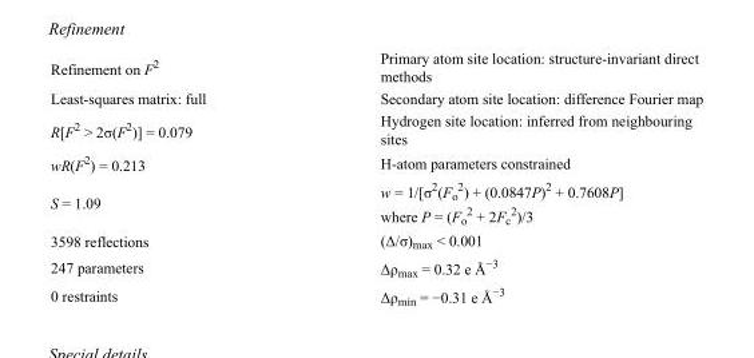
<table><tbody><tr><td>Refinement on F<sup>2</sup></td><td>Primary atom site location: structure-invariant direct methods</td></tr><tr><td>Least-squares matrix: full</td><td>Secondary atom site location: difference Fourier map</td></tr><tr><td>R[F<sup>2</sup> &gt; 2σ(F<sup>2</sup>)] = 0.079</td><td>Hydrogen site location: inferred from neighbouring sites</td></tr><tr><td>wR(F<sup>2</sup>) = 0.213</td><td>H-atom parameters constrained</td></tr><tr><td>S = 1.09</td><td>w = 1/[σ<sup>2</sup>(F<sub>o</sub> <sup>2</sup>) + (0.0847P)<sup>2</sup> + 0.7608P] where P = (F<sub>o</sub> <sup>2</sup> + 2F<sub>c</sub> <sup>2</sup>)/3</td></tr><tr><td>3598 reflections</td><td>(Δ/σ)<sub>max</sub> &lt; 0.001</td></tr><tr><td>247 parameters</td><td>Δρ<sub>max</sub> = 0.32 e Å<sup>−3</sup></td></tr><tr><td>0 restraints</td><td>Δρ<sub>min</sub> = −0.31 e Å<sup>−3</sup></td></tr></tbody></table>